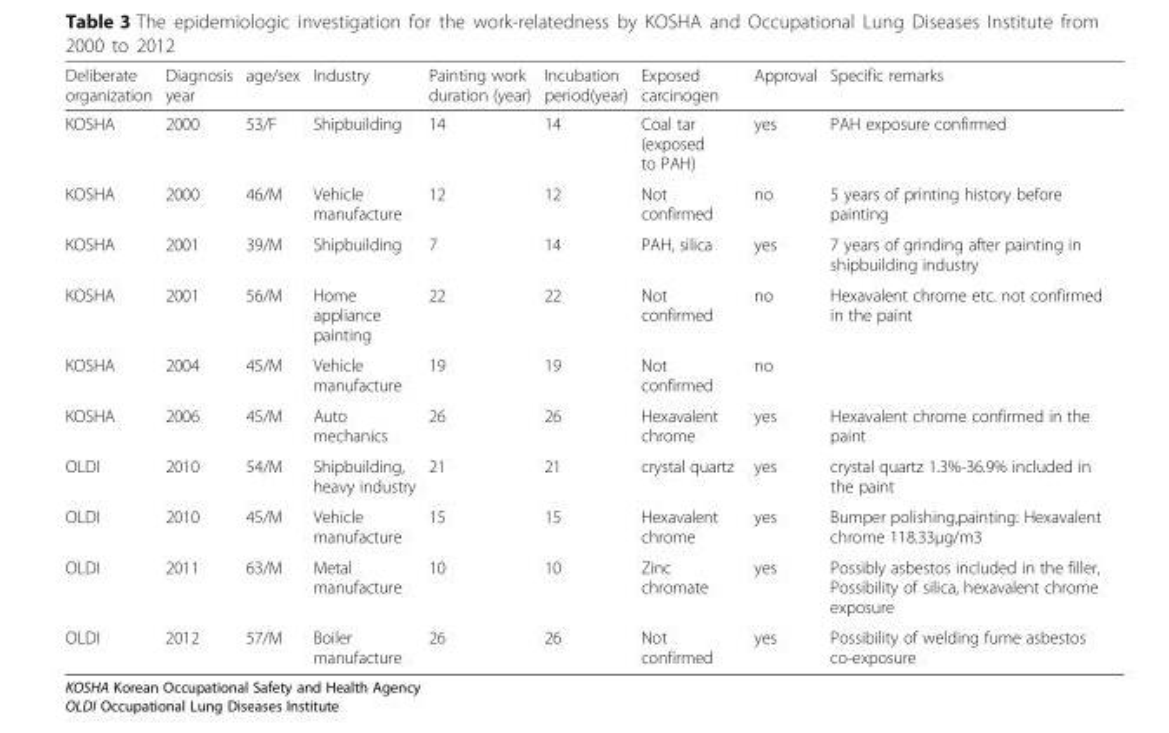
<table><thead><tr><td>Deliberate organization</td><td>Diagnosis year</td><td>age/sex</td><td>Industry</td><td>Painting work duration (year)</td><td>Incubation period(year)</td><td>Exposed carcinogen</td><td>Approval</td><td>Specific remarks</td></tr></thead><tbody><tr><td>KOSHA</td><td>2000</td><td>53/F</td><td>Shipbuilding</td><td>14</td><td>14</td><td>Coal tar (exposed to PAH)</td><td>yes</td><td>PAH exposure confirmed</td></tr><tr><td>KOSHA</td><td>2000</td><td>46/M</td><td>Vehicle manufacture</td><td>12</td><td>12</td><td>Not confirmed</td><td>no</td><td>5 years of printing history before painting</td></tr><tr><td>KOSHA</td><td>2001</td><td>39/M</td><td>Shipbuilding</td><td>7</td><td>14</td><td>PAH, silica</td><td>yes</td><td>7 years of grinding after painting in shipbuilding industry</td></tr><tr><td>KOSHA</td><td>2001</td><td>56/M</td><td>Home appliance painting</td><td>22</td><td>22</td><td>Not confirmed</td><td>no</td><td>Hexavalent chrome etc. not confirmed in the paint</td></tr><tr><td>KOSHA</td><td>2004</td><td>45/M</td><td>Vehicle manufacture</td><td>19</td><td>19</td><td>Not confirmed</td><td>no</td><td></td></tr><tr><td>KOSHA</td><td>2006</td><td>45/M</td><td>Auto mechanics</td><td>26</td><td>26</td><td>Hexavalent chrome</td><td>yes</td><td>Hexavalent chrome confirmed in the paint</td></tr><tr><td>OLDI</td><td>2010</td><td>54/M</td><td>Shipbuilding, heavy industry</td><td>21</td><td>21</td><td>crystal quartz</td><td>yes</td><td>crystal quartz 1.3%-36.9% included in the paint</td></tr><tr><td>OLDI</td><td>2010</td><td>45/M</td><td>Vehicle manufacture</td><td>15</td><td>15</td><td>Hexavalent chrome</td><td>yes</td><td>Bumper polishing,painting: Hexavalent chrome 118.33μg/m3</td></tr><tr><td>OLDI</td><td>2011</td><td>63/M</td><td>Metal manufacture</td><td>10</td><td>10</td><td>Zinc chromate</td><td>yes</td><td>Possibly asbestos included in the filler, Possibility of silica, hexavalent chrome exposure</td></tr><tr><td>OLDI</td><td>2012</td><td>57/M</td><td>Boiler manufacture</td><td>26</td><td>26</td><td>Not confirmed</td><td>yes</td><td>Possibility of welding fume asbestos co-exposure</td></tr></tbody></table>